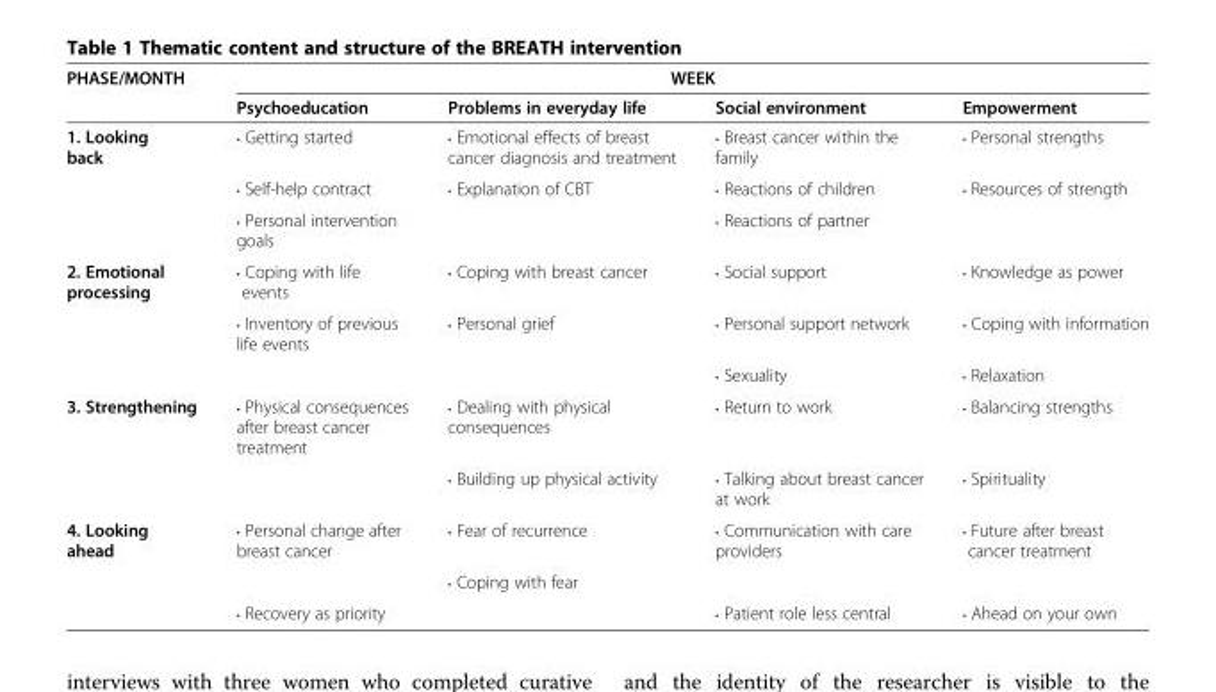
<table><thead><tr><td rowspan="2">PHASE/MONTH</td><td colspan="4">WEEK</td></tr><tr><td>Psychoeducation</td><td>Problems in everyday life</td><td>Social environment</td><td>Empowerment</td></tr></thead><tbody><tr><td rowspan="3">1. Looking back</td><td>• Getting started</td><td>• Emotional effects of breast cancer diagnosis and treatment</td><td>• Breast cancer within the family</td><td>• Personal strengths</td></tr><tr><td>• Self-help contract</td><td>• Explanation of CBT</td><td>• Reactions of children</td><td>• Resources of strength</td></tr><tr><td>• Personal intervention goals</td><td></td><td>• Reactions of partner</td><td></td></tr><tr><td rowspan="3">2. Emotional processing</td><td>• Coping with life events</td><td>• Coping with breast cancer</td><td>• Social support</td><td>• Knowledge as power</td></tr><tr><td>• Inventory of previous life events</td><td>• Personal grief</td><td>• Personal support network</td><td>• Coping with information</td></tr><tr><td></td><td></td><td>• Sexuality</td><td>• Relaxation</td></tr><tr><td rowspan="2">3. Strengthening</td><td>• Physical consequences after breast cancer treatment</td><td>• Dealing with physical consequences</td><td>• Return to work</td><td>• Balancing strengths</td></tr><tr><td></td><td>• Building up physical activity</td><td>• Talking about breast cancer at work</td><td>• Spirituality</td></tr><tr><td rowspan="3">4. Looking ahead</td><td>• Personal change after breast cancer</td><td>• Fear of recurrence</td><td>• Communication with care providers</td><td>• Future after breast cancer treatment</td></tr><tr><td></td><td>• Coping with fear</td><td></td><td></td></tr><tr><td>• Recovery as priority</td><td></td><td>• Patient role less central</td><td>• Ahead on your own</td></tr></tbody></table>